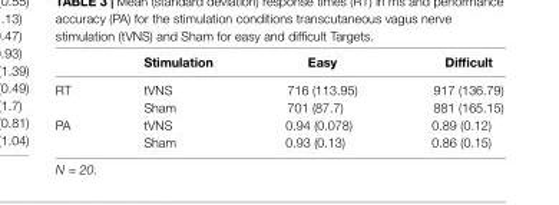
<table><thead><tr><td></td><td>Stimulation</td><td>Easy</td><td>Difficult</td></tr></thead><tbody><tr><td rowspan="2">RT</td><td>tVNS</td><td>716 (113.95)</td><td>917 (136.79)</td></tr><tr><td>Sham</td><td>701 (87.7)</td><td>881 (165.15)</td></tr><tr><td rowspan="2">PA</td><td>tVNS</td><td>0.94 (0.078)</td><td>0.89 (0.12)</td></tr><tr><td>Sham</td><td>0.93 (0.13)</td><td>0.86 (0.15)</td></tr></tbody></table>